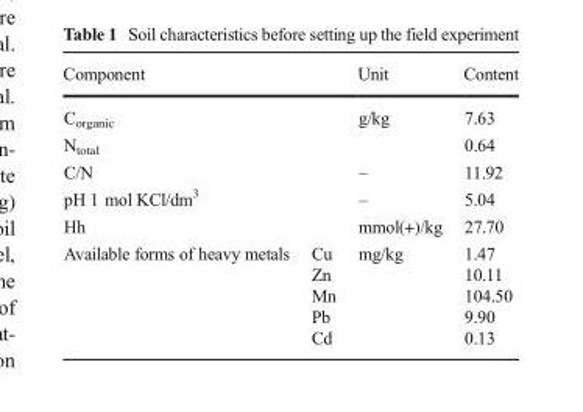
<table><thead><tr><td colspan="2">Component</td><td>Unit</td><td>Content</td></tr></thead><tbody><tr><td colspan="2">C<sub>organic</sub></td><td rowspan="2">g/kg</td><td>7.63</td></tr><tr><td colspan="2">N<sub>total</sub></td><td>0.64</td></tr><tr><td colspan="2">C/N</td><td>–</td><td>11.92</td></tr><tr><td colspan="2">pH 1 mol KCl/dm<sup>3</sup></td><td>–</td><td>5.04</td></tr><tr><td colspan="2">Hh</td><td>mmol(+)/kg</td><td>27.70</td></tr><tr><td>Available forms of heavy metals</td><td>Cu Zn Mn Pb Cd</td><td>mg/kg</td><td>1.47 10.11 104.50 9.90 0.13</td></tr></tbody></table>